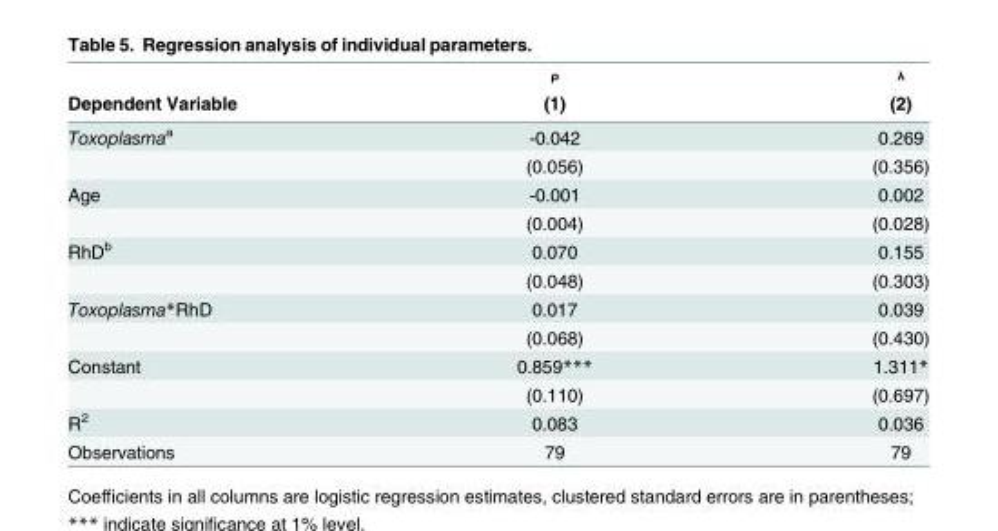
<table><thead><tr><td rowspan="2">Dependent Variable</td><td rowspan="2">ρ (1)</td><td rowspan="2">λ (2)</td></tr><tr></tr></thead><tbody><tr><td rowspan="2">Toxoplasma<sup>a</sup></td><td>-0.042</td><td>0.269</td></tr><tr><td>(0.056)</td><td>(0.356)</td></tr><tr><td rowspan="2">Age</td><td>-0.001</td><td>0.002</td></tr><tr><td>(0.004)</td><td>(0.028)</td></tr><tr><td rowspan="2">RhD<sup>b</sup></td><td>0.070</td><td>0.155</td></tr><tr><td>(0.048)</td><td>(0.303)</td></tr><tr><td rowspan="2">Toxoplasma*RhD</td><td>0.017</td><td>0.039</td></tr><tr><td>(0.068)</td><td>(0.430)</td></tr><tr><td rowspan="2">Constant</td><td>0.859***</td><td>1.311*</td></tr><tr><td>(0.110)</td><td>(0.697)</td></tr><tr><td>R<sup>2</sup></td><td>0.083</td><td>0.036</td></tr><tr><td>Observations</td><td>79</td><td>79</td></tr></tbody></table>